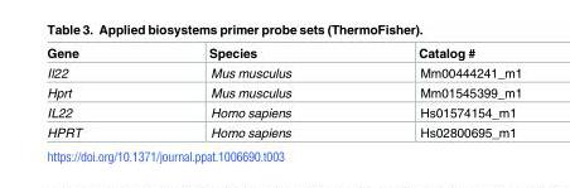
<table><thead><tr><td>Gene</td><td>Species</td><td>Catalog #</td></tr></thead><tbody><tr><td>Il22</td><td>Mus musculus</td><td>Mm00444241_m1</td></tr><tr><td>Hprt</td><td>Mus musculus</td><td>Mm01545399_m1</td></tr><tr><td>IL22</td><td>Homo sapiens</td><td>Hs01574154_m1</td></tr><tr><td>HPRT</td><td>Homo sapiens</td><td>Hs02800695_m1</td></tr></tbody></table>